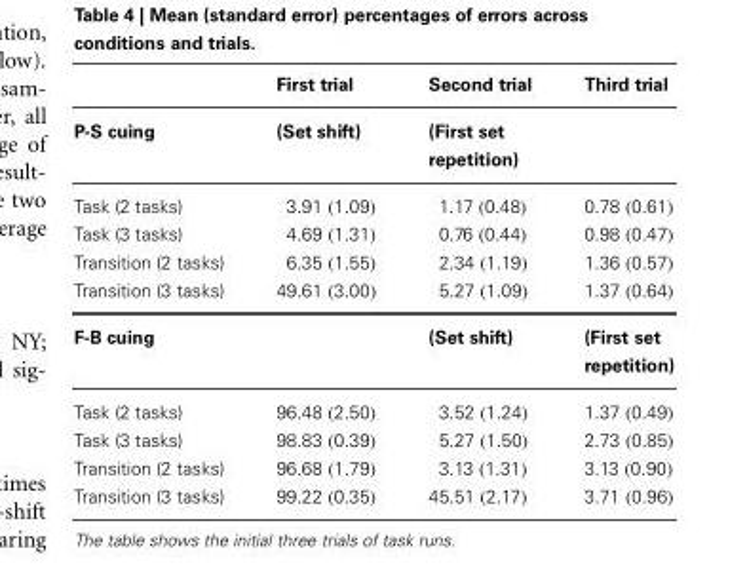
<table><thead><tr><td></td><td>First trial</td><td>Second trial</td><td>Third trial</td></tr></thead><tbody><tr><td>P-S cuing</td><td>(Set shift)</td><td>(First set repetition)</td><td></td></tr><tr><td>Task (2 tasks)</td><td>3.91 (1.09)</td><td>1.17 (0.48)</td><td>0.78 (0.61)</td></tr><tr><td>Task (3 tasks)</td><td>4.69 (1.31)</td><td>0.76 (0.44)</td><td>0.98 (0.47)</td></tr><tr><td>Transition (2 tasks)</td><td>6.35 (1.55)</td><td>2.34 (1.19)</td><td>1.36 (0.57)</td></tr><tr><td>Transition (3 tasks)</td><td>49.61 (3.00)</td><td>5.27 (1.09)</td><td>1.37 (0.64)</td></tr><tr><td>F-B cuing</td><td></td><td>(Set shift)</td><td>(First set repetition)</td></tr><tr><td>Task (2 tasks)</td><td>96.48 (2.50)</td><td>3.52 (1.24)</td><td>1.37 (0.49)</td></tr><tr><td>Task (3 tasks)</td><td>98.83 (0.39)</td><td>5.27 (1.50)</td><td>2.73 (0.85)</td></tr><tr><td>Transition (2 tasks)</td><td>96.68 (1.79)</td><td>3.13 (1.31)</td><td>3.13 (0.90)</td></tr><tr><td>Transition (3 tasks)</td><td>99.22 (0.35)</td><td>45.51 (2.17)</td><td>3.71 (0.96)</td></tr></tbody></table>